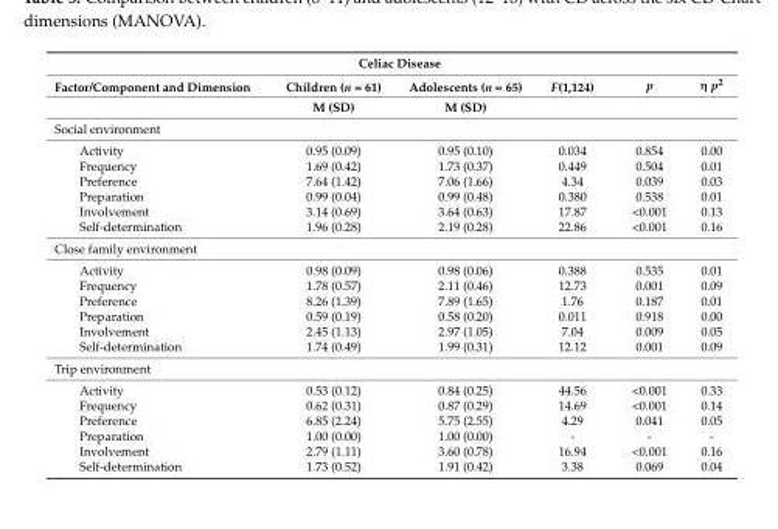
<table><thead><tr><td rowspan="3">Factor/Component and Dimension</td><td colspan="2">Celiac Disease</td><td rowspan="3">F(1,124)</td><td rowspan="3">p</td><td rowspan="3">η p<sup>2</sup></td></tr><tr><td rowspan="2">Children (n = 61) M (SD)</td><td rowspan="2">Adolescents (n = 65) M (SD)</td></tr><tr></tr></thead><tbody><tr><td colspan="6">Social environment</td></tr><tr><td>Activity</td><td>0.95 (0.09)</td><td>0.95 (0.10)</td><td>0.034</td><td>0.854</td><td>0.00</td></tr><tr><td>Frequency</td><td>1.69 (0.42)</td><td>1.73 (0.37)</td><td>0.449</td><td>0.504</td><td>0.01</td></tr><tr><td>Preference</td><td>7.64 (1.42)</td><td>7.06 (1.66)</td><td>4.34</td><td>0.039</td><td>0.03</td></tr><tr><td>Preparation</td><td>0.99 (0.04)</td><td>0.99 (0.48)</td><td>0.380</td><td>0.538</td><td>0.01</td></tr><tr><td>Involvement</td><td>3.14 (0.69)</td><td>3.64 (0.63)</td><td>17.87</td><td>&lt;0.001</td><td>0.13</td></tr><tr><td>Self-determination</td><td>1.96 (0.28)</td><td>2.19 (0.28)</td><td>22.86</td><td>&lt;0.001</td><td>0.16</td></tr><tr><td colspan="6">Close family environment</td></tr><tr><td>Activity</td><td>0.98 (0.09)</td><td>0.98 (0.06)</td><td>0.388</td><td>0.535</td><td>0.01</td></tr><tr><td>Frequency</td><td>1.78 (0.57)</td><td>2.11 (0.46)</td><td>12.73</td><td>0.001</td><td>0.09</td></tr><tr><td>Preference</td><td>8.26 (1.39)</td><td>7.89 (1.65)</td><td>1.76</td><td>0.187</td><td>0.01</td></tr><tr><td>Preparation</td><td>0.59 (0.19)</td><td>0.58 (0.20)</td><td>0.011</td><td>0.918</td><td>0.00</td></tr><tr><td>Involvement</td><td>2.45 (1.13)</td><td>2.97 (1.05)</td><td>7.04</td><td>0.009</td><td>0.05</td></tr><tr><td>Self-determination</td><td>1.74 (0.49)</td><td>1.99 (0.31)</td><td>12.12</td><td>0.001</td><td>0.09</td></tr><tr><td colspan="6">Trip environment</td></tr><tr><td>Activity</td><td>0.53 (0.12)</td><td>0.84 (0.25)</td><td>44.56</td><td>&lt;0.001</td><td>0.33</td></tr><tr><td>Frequency</td><td>0.62 (0.31)</td><td>0.87 (0.29)</td><td>14.69</td><td>&lt;0.001</td><td>0.14</td></tr><tr><td>Preference</td><td>6.85 (2.24)</td><td>5.75 (2.55)</td><td>4.29</td><td>0.041</td><td>0.05</td></tr><tr><td>Preparation</td><td>1.00 (0.00)</td><td>1.00 (0.00)</td><td>-</td><td>-</td><td>-</td></tr><tr><td>Involvement</td><td>2.79 (1.11)</td><td>3.60 (0.78)</td><td>16.94</td><td>&lt;0.001</td><td>0.16</td></tr><tr><td>Self-determination</td><td>1.73 (0.52)</td><td>1.91 (0.42)</td><td>3.38</td><td>0.069</td><td>0.04</td></tr></tbody></table>